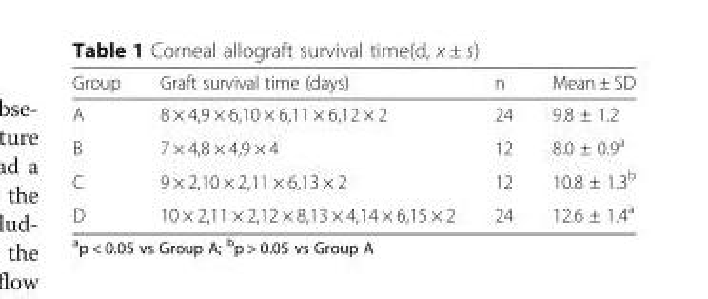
<table><thead><tr><td>Group</td><td>Graft survival time (days)</td><td>n</td><td>Mean ± SD</td></tr></thead><tbody><tr><td>A</td><td>8 × 4,9 × 6,10 × 6,11 × 6,12 × 2</td><td>24</td><td>9.8 ± 1.2</td></tr><tr><td>B</td><td>7 × 4,8 × 4,9 × 4</td><td>12</td><td>8.0 ± 0.9<sup>a</sup></td></tr><tr><td>C</td><td>9 × 2,10 × 2,11 × 6,13 × 2</td><td>12</td><td>10.8 ± 1.3<sup>b</sup></td></tr><tr><td>D</td><td>10 × 2,11 × 2,12 × 8,13 × 4,14 × 6,15 × 2</td><td>24</td><td>12.6 ± 1.4<sup>a</sup></td></tr></tbody></table>